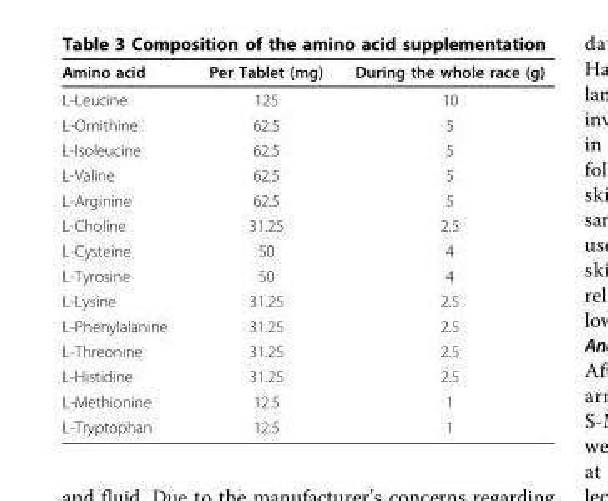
<table><thead><tr><td>Amino acid</td><td>Per Tablet (mg)</td><td>During the whole race (g)</td></tr></thead><tbody><tr><td>L-Leucine</td><td>125</td><td>10</td></tr><tr><td>L-Ornithine</td><td>62.5</td><td>5</td></tr><tr><td>L-Isoleucine</td><td>62.5</td><td>5</td></tr><tr><td>L-Valine</td><td>62.5</td><td>5</td></tr><tr><td>L-Arginine</td><td>62.5</td><td>5</td></tr><tr><td>L-Choline</td><td>31.25</td><td>2.5</td></tr><tr><td>L-Cysteine</td><td>50</td><td>4</td></tr><tr><td>L-Tyrosine</td><td>50</td><td>4</td></tr><tr><td>L-Lysine</td><td>31.25</td><td>2.5</td></tr><tr><td>L-Phenylalanine</td><td>31.25</td><td>2.5</td></tr><tr><td>L-Threonine</td><td>31.25</td><td>2.5</td></tr><tr><td>L-Histidine</td><td>31.25</td><td>2.5</td></tr><tr><td>L-Methionine</td><td>12.5</td><td>1</td></tr><tr><td>L-Tryptophan</td><td>12.5</td><td>1</td></tr></tbody></table>